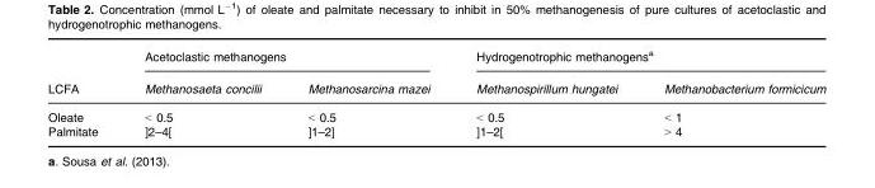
<table><thead><tr><td rowspan="2">LCFA</td><td colspan="2">Acetoclastic methanogens</td><td colspan="2">Hydrogenotrophic methanogens<sup>a</sup></td></tr><tr><td>Methanosaeta concilii</td><td>Methanosarcina mazei</td><td>Methanospirillum hungatei</td><td>Methanobacterium formicicum</td></tr></thead><tbody><tr><td>Oleate</td><td>&lt; 0.5</td><td>&lt; 0.5</td><td>&lt; 0.5</td><td>&lt; 1</td></tr><tr><td>Palmitate</td><td>]2–4[</td><td>]1–2]</td><td>]1–2[</td><td>&gt; 4</td></tr></tbody></table>